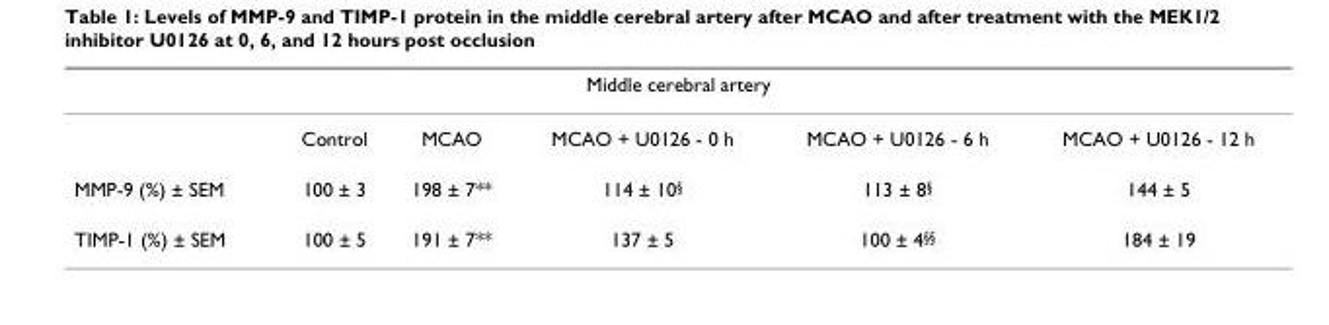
<table><thead><tr><td colspan="6">Middle cerebral artery</td></tr><tr><td></td><td>Control</td><td>MCAO</td><td>MCAO + U0126 - 0 h</td><td>MCAO + U0126 - 6 h</td><td>MCAO + U0126 - 12 h</td></tr></thead><tbody><tr><td>MMP-9 (%) ± SEM</td><td>100 ± 3</td><td>198 ± 7**</td><td>114 ± 10<sup>§</sup></td><td>113 ± 8<sup>§</sup></td><td>144 ± 5</td></tr><tr><td>TIMP-1 (%) ± SEM</td><td>100 ± 5</td><td>191 ± 7**</td><td>137 ± 5</td><td>100 ± 4<sup>§§</sup></td><td>184 ± 19</td></tr></tbody></table>